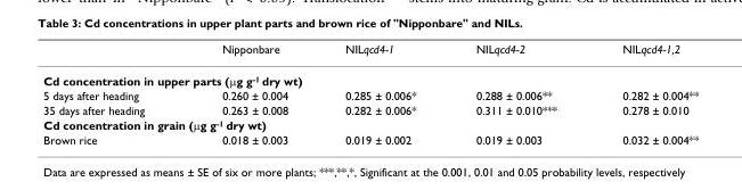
<table><thead><tr><td></td><td>Nipponbare</td><td>NILqcd4-1</td><td>NILqcd4-2</td><td>NILqcd4-1,2</td></tr></thead><tbody><tr><td colspan="5">Cd concentration in upper parts (μg g<sup>-1</sup> dry wt)</td></tr><tr><td>5 days after heading</td><td>0.260 ± 0.004</td><td>0.285 ± 0.006*</td><td>0.288 ± 0.006**</td><td>0.282 ± 0.004**</td></tr><tr><td>35 days after heading</td><td>0.263 ± 0.008</td><td>0.282 ± 0.006*</td><td>0.311 ± 0.010***</td><td>0.278 ± 0.010</td></tr><tr><td colspan="5">Cd concentration in grain (μg g<sup>-1</sup> dry wt)</td></tr><tr><td>Brown rice</td><td>0.018 ± 0.003</td><td>0.019 ± 0.002</td><td>0.019 ± 0.003</td><td>0.032 ± 0.004**</td></tr></tbody></table>